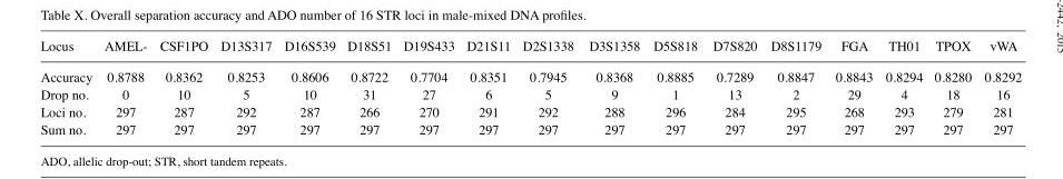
<table><thead><tr><td>Locus</td><td>AMEL‑</td><td>CSF1PO</td><td>D13S317</td><td>D16S539</td><td>D18S51</td><td>D19S433</td><td>D21S11</td><td>D2S1338</td><td>D3S1358</td><td>D5S818</td><td>D7S820</td><td>D8S1179</td><td>FGA</td><td>TH01</td><td>TPOX</td><td>vWA</td></tr></thead><tbody><tr><td>Accuracy</td><td>0.8788</td><td>0.8362</td><td>0.8253</td><td>0.8606</td><td>0.8722</td><td>0.7704</td><td>0.8351</td><td>0.7945</td><td>0.8368</td><td>0.8885</td><td>0.7289</td><td>0.8847</td><td>0.8843</td><td>0.8294</td><td>0.8280</td><td>0.8292</td></tr><tr><td>Drop no.</td><td>0</td><td>10</td><td>5</td><td>10</td><td>31</td><td>27</td><td>6</td><td>5</td><td>9</td><td>1</td><td>13</td><td>2</td><td>29</td><td>4</td><td>18</td><td>16</td></tr><tr><td>Loci no.</td><td>297</td><td>287</td><td>292</td><td>287</td><td>266</td><td>270</td><td>291</td><td>292</td><td>288</td><td>296</td><td>284</td><td>295</td><td>268</td><td>293</td><td>279</td><td>281</td></tr><tr><td>Sum no.</td><td>297</td><td>297</td><td>297</td><td>297</td><td>297</td><td>297</td><td>297</td><td>297</td><td>297</td><td>297</td><td>297</td><td>297</td><td>297</td><td>297</td><td>297</td><td>297</td></tr></tbody></table>